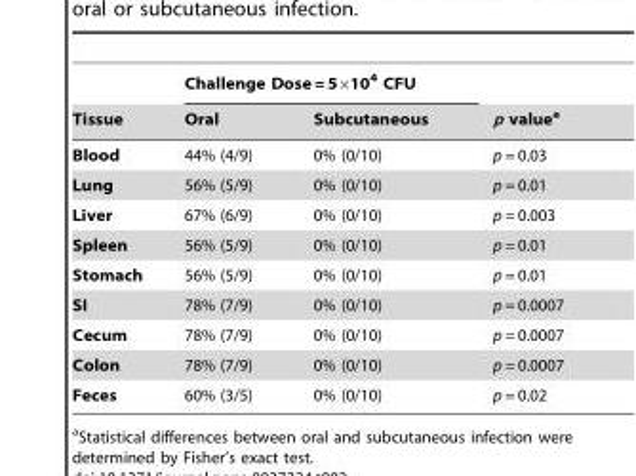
<table><thead><tr><td rowspan="2">Tissue</td><td colspan="2">Challenge Dose = 5×10<sup>4</sup> CFU</td><td rowspan="2">p value<sup>a</sup></td></tr><tr><td>Oral</td><td>Subcutaneous</td></tr></thead><tbody><tr><td>Blood</td><td>44% (4/9)</td><td>0% (0/10)</td><td>p = 0.03</td></tr><tr><td>Lung</td><td>56% (5/9)</td><td>0% (0/10)</td><td>p = 0.01</td></tr><tr><td>Liver</td><td>67% (6/9)</td><td>0% (0/10)</td><td>p = 0.003</td></tr><tr><td>Spleen</td><td>56% (5/9)</td><td>0% (0/10)</td><td>p = 0.01</td></tr><tr><td>Stomach</td><td>56% (5/9)</td><td>0% (0/10)</td><td>p = 0.01</td></tr><tr><td>SI</td><td>78% (7/9)</td><td>0% (0/10)</td><td>p = 0.0007</td></tr><tr><td>Cecum</td><td>78% (7/9)</td><td>0% (0/10)</td><td>p = 0.0007</td></tr><tr><td>Colon</td><td>78% (7/9)</td><td>0% (0/10)</td><td>p = 0.0007</td></tr><tr><td>Feces</td><td>60% (3/5)</td><td>0% (0/10)</td><td>p = 0.02</td></tr></tbody></table>